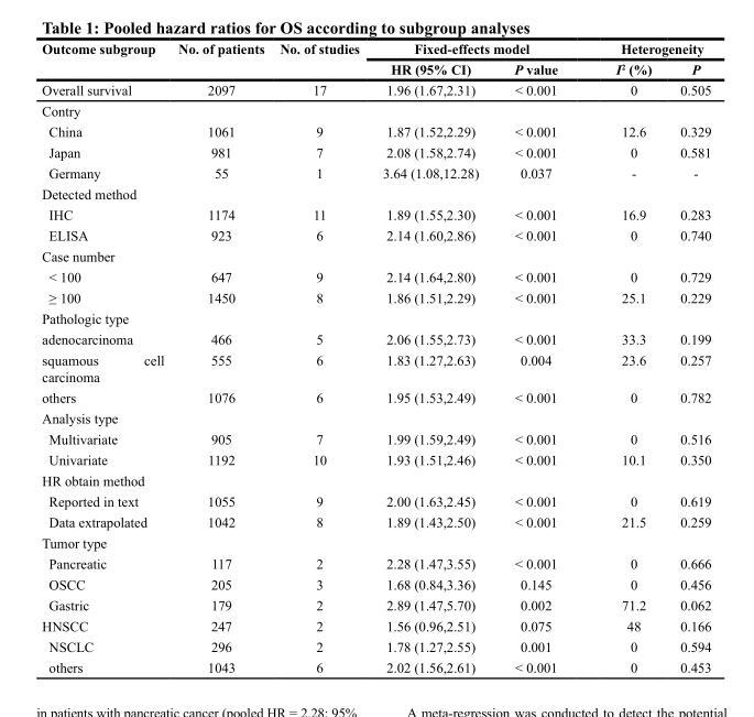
<table><thead><tr><td rowspan="2">Outcome subgroup</td><td rowspan="2">No. of patients</td><td rowspan="2">No. of studies</td><td colspan="2">Fixed-effects model</td><td colspan="2">Heterogeneity</td></tr><tr><td>HR (95% CI)</td><td>P value</td><td>I<sup>2</sup> (%)</td><td>P</td></tr></thead><tbody><tr><td>Overall survival</td><td>2097</td><td>17</td><td>1.96 (1.67,2.31)</td><td>&lt; 0.001</td><td>0</td><td>0.505</td></tr><tr><td colspan="7">Contry</td></tr><tr><td>China</td><td>1061</td><td>9</td><td>1.87 (1.52,2.29)</td><td>&lt; 0.001</td><td>12.6</td><td>0.329</td></tr><tr><td>Japan</td><td>981</td><td>7</td><td>2.08 (1.58,2.74)</td><td>&lt; 0.001</td><td>0</td><td>0.581</td></tr><tr><td>Germany</td><td>55</td><td>1</td><td>3.64 (1.08,12.28)</td><td>0.037</td><td>-</td><td>-</td></tr><tr><td colspan="7">Detected method</td></tr><tr><td>IHC</td><td>1174</td><td>11</td><td>1.89 (1.55,2.30)</td><td>&lt; 0.001</td><td>16.9</td><td>0.283</td></tr><tr><td>ELISA</td><td>923</td><td>6</td><td>2.14 (1.60,2.86)</td><td>&lt; 0.001</td><td>0</td><td>0.740</td></tr><tr><td colspan="7">Case number</td></tr><tr><td>&lt; 100</td><td>647</td><td>9</td><td>2.14 (1.64,2.80)</td><td>&lt; 0.001</td><td>0</td><td>0.729</td></tr><tr><td>≥ 100</td><td>1450</td><td>8</td><td>1.86 (1.51,2.29)</td><td>&lt; 0.001</td><td>25.1</td><td>0.229</td></tr><tr><td colspan="7">Pathologic type</td></tr><tr><td>adenocarcinoma</td><td>466</td><td>5</td><td>2.06 (1.55,2.73)</td><td>&lt; 0.001</td><td>33.3</td><td>0.199</td></tr><tr><td>squamous cell carcinoma</td><td>555</td><td>6</td><td>1.83 (1.27,2.63)</td><td>0.004</td><td>23.6</td><td>0.257</td></tr><tr><td>others</td><td>1076</td><td>6</td><td>1.95 (1.53,2.49)</td><td>&lt; 0.001</td><td>0</td><td>0.782</td></tr><tr><td colspan="7">Analysis type</td></tr><tr><td>Multivariate</td><td>905</td><td>7</td><td>1.99 (1.59,2.49)</td><td>&lt; 0.001</td><td>0</td><td>0.516</td></tr><tr><td>Univariate</td><td>1192</td><td>10</td><td>1.93 (1.51,2.46)</td><td>&lt; 0.001</td><td>10.1</td><td>0.350</td></tr><tr><td colspan="7">HR obtain method</td></tr><tr><td>Reported in text</td><td>1055</td><td>9</td><td>2.00 (1.63,2.45)</td><td>&lt; 0.001</td><td>0</td><td>0.619</td></tr><tr><td>Data extrapolated</td><td>1042</td><td>8</td><td>1.89 (1.43,2.50)</td><td>&lt; 0.001</td><td>21.5</td><td>0.259</td></tr><tr><td colspan="7">Tumor type</td></tr><tr><td>Pancreatic</td><td>117</td><td>2</td><td>2.28 (1.47,3.55)</td><td>&lt; 0.001</td><td>0</td><td>0.666</td></tr><tr><td>OSCC</td><td>205</td><td>3</td><td>1.68 (0.84,3.36)</td><td>0.145</td><td>0</td><td>0.456</td></tr><tr><td>Gastric</td><td>179</td><td>2</td><td>2.89 (1.47,5.70)</td><td>0.002</td><td>71.2</td><td>0.062</td></tr><tr><td>HNSCC</td><td>247</td><td>2</td><td>1.56 (0.96,2.51)</td><td>0.075</td><td>48</td><td>0.166</td></tr><tr><td>NSCLC</td><td>296</td><td>2</td><td>1.78 (1.27,2.55)</td><td>0.001</td><td>0</td><td>0.594</td></tr><tr><td>others</td><td>1043</td><td>6</td><td>2.02 (1.56,2.61)</td><td>&lt; 0.001</td><td>0</td><td>0.453</td></tr></tbody></table>